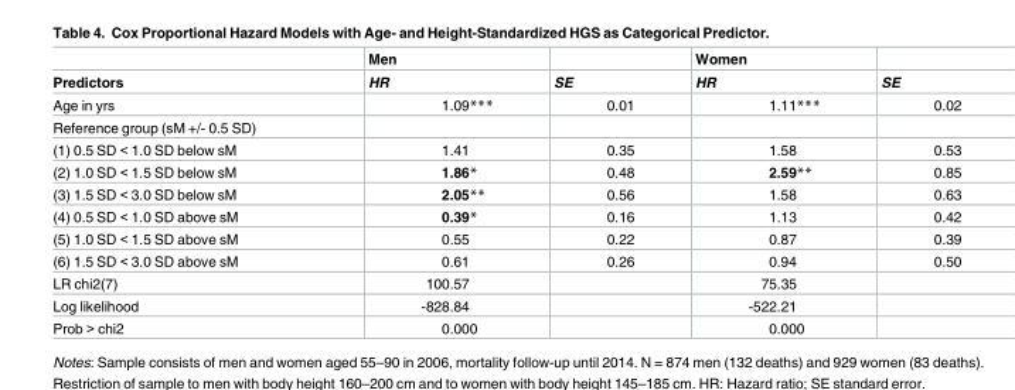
<table><thead><tr><td rowspan="2">Predictors</td><td rowspan="2">Men HR</td><td rowspan="2">SE</td><td rowspan="2">Women HR</td><td rowspan="2">SE</td></tr><tr></tr></thead><tbody><tr><td>Age in yrs</td><td>1.09***</td><td>0.01</td><td>1.11***</td><td>0.02</td></tr><tr><td colspan="5">Reference group (sM +/- 0.5 SD)</td></tr><tr><td>(1) 0.5 SD &lt; 1.0 SD below sM</td><td>1.41</td><td>0.35</td><td>1.58</td><td>0.53</td></tr><tr><td>(2) 1.0 SD &lt; 1.5 SD below sM</td><td>1.86*</td><td>0.48</td><td>2.59**</td><td>0.85</td></tr><tr><td>(3) 1.5 SD &lt; 3.0 SD below sM</td><td>2.05**</td><td>0.56</td><td>1.58</td><td>0.63</td></tr><tr><td>(4) 0.5 SD &lt; 1.0 SD above sM</td><td>0.39*</td><td>0.16</td><td>1.13</td><td>0.42</td></tr><tr><td>(5) 1.0 SD &lt; 1.5 SD above sM</td><td>0.55</td><td>0.22</td><td>0.87</td><td>0.39</td></tr><tr><td>(6) 1.5 SD &lt; 3.0 SD above sM</td><td>0.61</td><td>0.26</td><td>0.94</td><td>0.50</td></tr><tr><td>LR chi2(7)</td><td>100.57</td><td></td><td>75.35</td><td></td></tr><tr><td>Log likelihood</td><td>-828.84</td><td></td><td>-522.21</td><td></td></tr><tr><td>Prob &gt; chi2</td><td>0.000</td><td></td><td>0.000</td><td></td></tr></tbody></table>